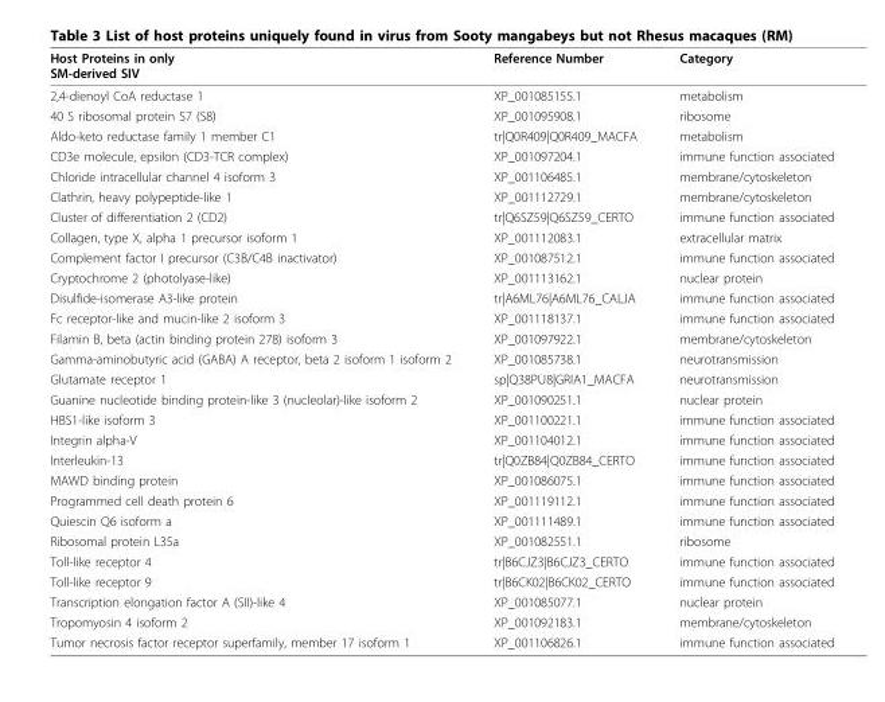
<table><thead><tr><td>Host Proteins in only SM-derived SIV</td><td>Reference Number</td><td>Category</td></tr></thead><tbody><tr><td>2,4-dienoyl CoA reductase 1</td><td>XP_001085155.1</td><td>metabolism</td></tr><tr><td>40 S ribosomal protein S7 (S8)</td><td>XP_001095908.1</td><td>ribosome</td></tr><tr><td>Aldo-keto reductase family 1 member C1</td><td>tr|Q0R409|Q0R409_MACFA</td><td>metabolism</td></tr><tr><td>CD3e molecule, epsilon (CD3-TCR complex)</td><td>XP_001097204.1</td><td>immune function associated</td></tr><tr><td>Chloride intracellular channel 4 isoform 3</td><td>XP_001106485.1</td><td>membrane/cytoskeleton</td></tr><tr><td>Clathrin, heavy polypeptide-like 1</td><td>XP_001112729.1</td><td>membrane/cytoskeleton</td></tr><tr><td>Cluster of differentiation 2 (CD2)</td><td>tr|Q6SZ59|Q6SZ59_CERTO</td><td>immune function associated</td></tr><tr><td>Collagen, type X, alpha 1 precursor isoform 1</td><td>XP_001112083.1</td><td>extracellular matrix</td></tr><tr><td>Complement factor I precursor (C3B/C4B inactivator)</td><td>XP_001087512.1</td><td>immune function associated</td></tr><tr><td>Cryptochrome 2 (photolyase-like)</td><td>XP_001113162.1</td><td>nuclear protein</td></tr><tr><td>Disulfide-isomerase A3-like protein</td><td>tr|A6ML76|A6ML76_CALJA</td><td>immune function associated</td></tr><tr><td>Fc receptor-like and mucin-like 2 isoform 3</td><td>XP_001118137.1</td><td>immune function associated</td></tr><tr><td>Filamin B, beta (actin binding protein 278) isoform 3</td><td>XP_001097922.1</td><td>membrane/cytoskeleton</td></tr><tr><td>Gamma-aminobutyric acid (GABA) A receptor, beta 2 isoform 1 isoform 2</td><td>XP_001085738.1</td><td>neurotransmission</td></tr><tr><td>Glutamate receptor 1</td><td>sp|Q38PU8|GRIA1_MACFA</td><td>neurotransmission</td></tr><tr><td>Guanine nucleotide binding protein-like 3 (nucleolar)-like isoform 2</td><td>XP_001090251.1</td><td>nuclear protein</td></tr><tr><td>HBS1-like isoform 3</td><td>XP_001100221.1</td><td>immune function associated</td></tr><tr><td>Integrin alpha-V</td><td>XP_001104012.1</td><td>immune function associated</td></tr><tr><td>Interleukin-13</td><td>tr|Q0ZB84|Q0ZB84_CERTO</td><td>immune function associated</td></tr><tr><td>MAWD binding protein</td><td>XP_001086075.1</td><td>immune function associated</td></tr><tr><td>Programmed cell death protein 6</td><td>XP_001119112.1</td><td>immune function associated</td></tr><tr><td>Quiescin Q6 isoform a</td><td>XP_001111489.1</td><td>immune function associated</td></tr><tr><td>Ribosomal protein L35a</td><td>XP_001082551.1</td><td>ribosome</td></tr><tr><td>Toll-like receptor 4</td><td>tr|B6CJZ3|B6CJZ3_CERTO</td><td>immune function associated</td></tr><tr><td>Toll-like receptor 9</td><td>tr|B6CK02|B6CK02_CERTO</td><td>immune function associated</td></tr><tr><td>Transcription elongation factor A (SII)-like 4</td><td>XP_001085077.1</td><td>nuclear protein</td></tr><tr><td>Tropomyosin 4 isoform 2</td><td>XP_001092183.1</td><td>membrane/cytoskeleton</td></tr><tr><td>Tumor necrosis factor receptor superfamily, member 17 isoform 1</td><td>XP_001106826.1</td><td>immune function associated</td></tr></tbody></table>